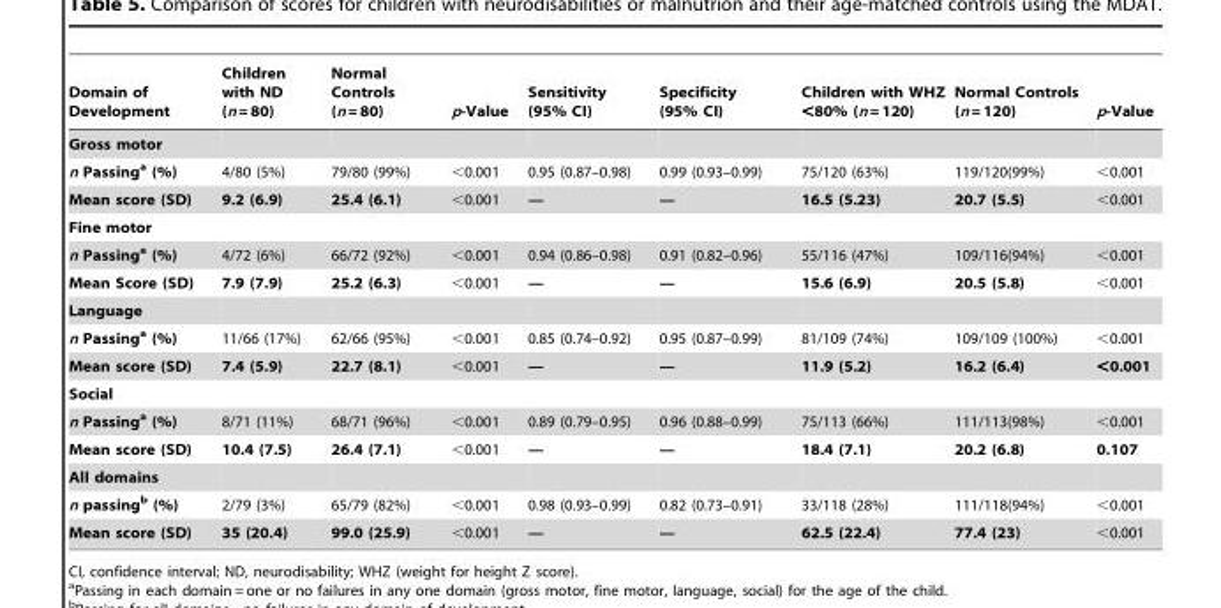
<table><thead><tr><td>Domain of Development</td><td>Children with ND (n = 80)</td><td>Normal Controls (n = 80)</td><td>p-Value</td><td>Sensitivity (95% CI)</td><td>Specificity (95% CI)</td><td>Children with WHZ &lt;80% (n = 120)</td><td>Normal Controls (n = 120)</td><td>p-Value</td></tr></thead><tbody><tr><td colspan="9">Gross motor</td></tr><tr><td>n Passinga (%)</td><td>4/80 (5%)</td><td>79/80 (99%)</td><td>&lt;0.001</td><td>0.95 (0.87–0.98)</td><td>0.99 (0.93–0.99)</td><td>75/120 (63%)</td><td>119/120(99%)</td><td>&lt;0.001</td></tr><tr><td>Mean score (SD)</td><td>9.2 (6.9)</td><td>25.4 (6.1)</td><td>&lt;0.001</td><td>—</td><td>—</td><td>16.5 (5.23)</td><td>20.7 (5.5)</td><td>&lt;0.001</td></tr><tr><td colspan="9">Fine motor</td></tr><tr><td>n Passinga (%)</td><td>4/72 (6%)</td><td>66/72 (92%)</td><td>&lt;0.001</td><td>0.94 (0.86–0.98)</td><td>0.91 (0.82–0.96)</td><td>55/116 (47%)</td><td>109/116(94%)</td><td>&lt;0.001</td></tr><tr><td>Mean Score (SD)</td><td>7.9 (7.9)</td><td>25.2 (6.3)</td><td>&lt;0.001</td><td>—</td><td>—</td><td>15.6 (6.9)</td><td>20.5 (5.8)</td><td>&lt;0.001</td></tr><tr><td colspan="9">Language</td></tr><tr><td>n Passinga (%)</td><td>11/66 (17%)</td><td>62/66 (95%)</td><td>&lt;0.001</td><td>0.85 (0.74–0.92)</td><td>0.95 (0.87–0.99)</td><td>81/109 (74%)</td><td>109/109 (100%)</td><td>&lt;0.001</td></tr><tr><td>Mean score (SD)</td><td>7.4 (5.9)</td><td>22.7 (8.1)</td><td>&lt;0.001</td><td>—</td><td>—</td><td>11.9 (5.2)</td><td>16.2 (6.4)</td><td>&lt;0.001</td></tr><tr><td colspan="9">Social</td></tr><tr><td>n Passinga (%)</td><td>8/71 (11%)</td><td>68/71 (96%)</td><td>&lt;0.001</td><td>0.89 (0.79–0.95)</td><td>0.96 (0.88–0.99)</td><td>75/113 (66%)</td><td>111/113(98%)</td><td>&lt;0.001</td></tr><tr><td>Mean score (SD)</td><td>10.4 (7.5)</td><td>26.4 (7.1)</td><td>&lt;0.001</td><td>—</td><td>—</td><td>18.4 (7.1)</td><td>20.2 (6.8)</td><td>0.107</td></tr><tr><td colspan="9">All domains</td></tr><tr><td>n passingb (%)</td><td>2/79 (3%)</td><td>65/79 (82%)</td><td>&lt;0.001</td><td>0.98 (0.93–0.99)</td><td>0.82 (0.73–0.91)</td><td>33/118 (28%)</td><td>111/118(94%)</td><td>&lt;0.001</td></tr><tr><td>Mean score (SD)</td><td>35 (20.4)</td><td>99.0 (25.9)</td><td>&lt;0.001</td><td>—</td><td>—</td><td>62.5 (22.4)</td><td>77.4 (23)</td><td>&lt;0.001</td></tr></tbody></table>